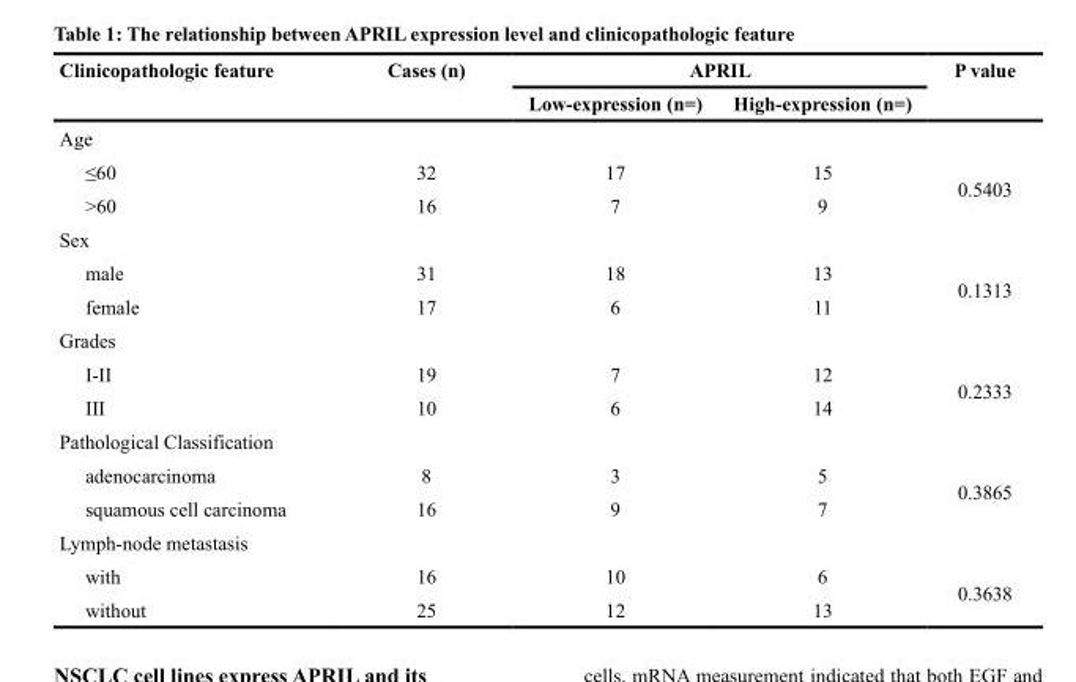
<table><thead><tr><td rowspan="2">Clinicopathologic feature</td><td rowspan="2">Cases (n)</td><td colspan="2">APRIL</td><td rowspan="2">P value</td></tr><tr><td>Low-expression (n=)</td><td>High-expression (n=)</td></tr></thead><tbody><tr><td colspan="5">Age</td></tr><tr><td>≤60</td><td>32</td><td>17</td><td>15</td><td rowspan="2">0.5403</td></tr><tr><td>&gt;60</td><td>16</td><td>7</td><td>9</td></tr><tr><td colspan="5">Sex</td></tr><tr><td>male</td><td>31</td><td>18</td><td>13</td><td rowspan="2">0.1313</td></tr><tr><td>female</td><td>17</td><td>6</td><td>11</td></tr><tr><td colspan="5">Grades</td></tr><tr><td>I-II</td><td>19</td><td>7</td><td>12</td><td rowspan="2">0.2333</td></tr><tr><td>III</td><td>10</td><td>6</td><td>14</td></tr><tr><td colspan="5">Pathological Classification</td></tr><tr><td>adenocarcinoma</td><td>8</td><td>3</td><td>5</td><td rowspan="2">0.3865</td></tr><tr><td>squamous cell carcinoma</td><td>16</td><td>9</td><td>7</td></tr><tr><td colspan="5">Lymph-node metastasis</td></tr><tr><td>with</td><td>16</td><td>10</td><td>6</td><td rowspan="2">0.3638</td></tr><tr><td>without</td><td>25</td><td>12</td><td>13</td></tr></tbody></table>